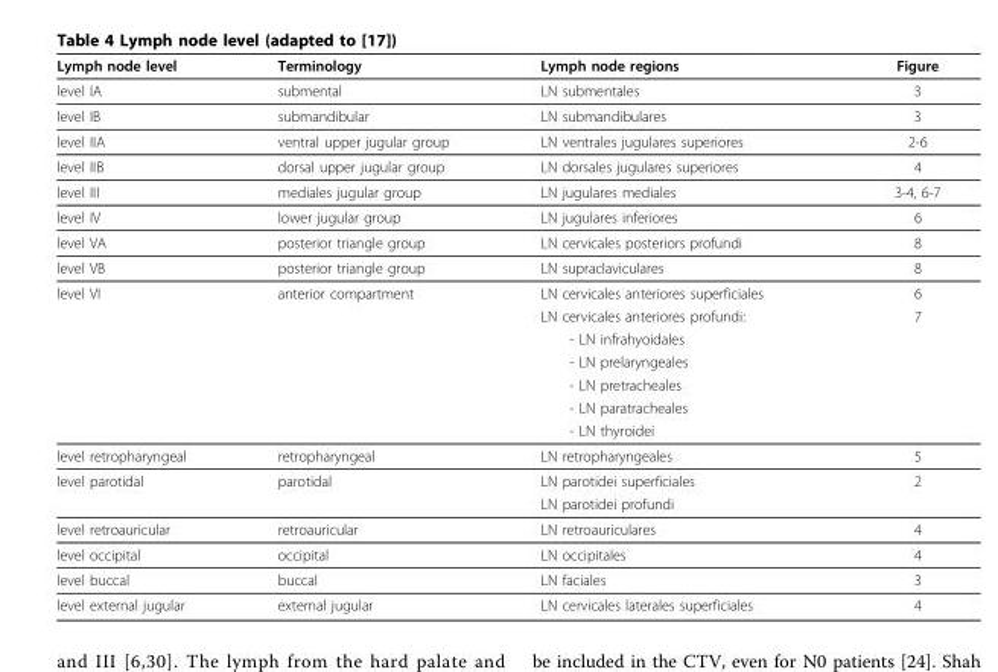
<table><thead><tr><td>Lymph node level</td><td>Terminology</td><td>Lymph node regions</td><td>Figure</td></tr></thead><tbody><tr><td>level IA</td><td>submental</td><td>LN submentales</td><td>3</td></tr><tr><td>level IB</td><td>submandibular</td><td>LN submandibulares</td><td>3</td></tr><tr><td>level IIA</td><td>ventral upper jugular group</td><td>LN ventrales jugulares superiores</td><td>2-6</td></tr><tr><td>level IIB</td><td>dorsal upper jugular group</td><td>LN dorsales jugulares superiores</td><td>4</td></tr><tr><td>level III</td><td>mediales jugular group</td><td>LN jugulares mediales</td><td>3-4, 6-7</td></tr><tr><td>level IV</td><td>lower jugular group</td><td>LN jugulares inferiores</td><td>6</td></tr><tr><td>level VA</td><td>posterior triangle group</td><td>LN cervicales posteriors profundi</td><td>8</td></tr><tr><td>level VB</td><td>posterior triangle group</td><td>LN supraclaviculares</td><td>8</td></tr><tr><td rowspan="7">level VI</td><td>anterior compartment</td><td>LN cervicales anteriores superficiales</td><td>6</td></tr><tr><td></td><td>LN cervicales anteriores profundi:</td><td>7</td></tr><tr><td></td><td>- LN infrahyoidales</td><td></td></tr><tr><td></td><td>- LN prelaryngeales</td><td></td></tr><tr><td></td><td>- LN pretracheales</td><td></td></tr><tr><td></td><td>- LN paratracheales</td><td></td></tr><tr><td></td><td>- LN thyroidei</td><td></td></tr><tr><td>level retropharyngeal</td><td>retropharyngeal</td><td>LN retropharyngeales</td><td>5</td></tr><tr><td rowspan="2">level parotidal</td><td>parotidal</td><td>LN parotidei superficiales</td><td>2</td></tr><tr><td></td><td>LN parotidei profundi</td><td></td></tr><tr><td>level retroauricular</td><td>retroauricular</td><td>LN retroauriculares</td><td>4</td></tr><tr><td>level occipital</td><td>occipital</td><td>LN occipitales</td><td>4</td></tr><tr><td>level buccal</td><td>buccal</td><td>LN faciales</td><td>3</td></tr><tr><td>level external jugular</td><td>external jugular</td><td>LN cervicales laterales superficiales</td><td>4</td></tr></tbody></table>